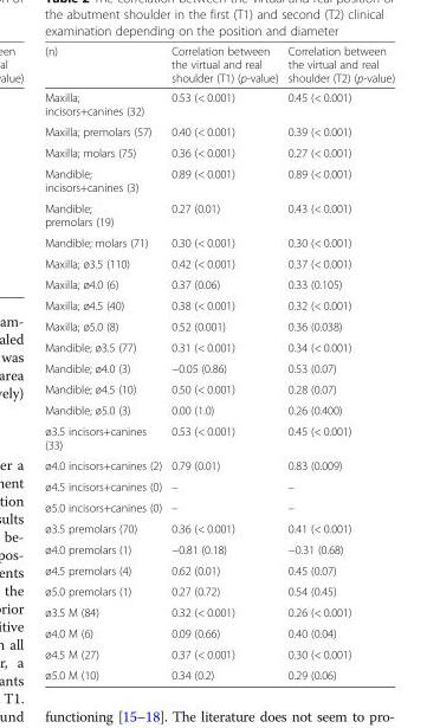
<table><thead><tr><td>(n)</td><td>Correlation between the virtual and real shoulder (T1) (p-value)</td><td>Correlation between the virtual and real shoulder (T2) (p-value)</td></tr></thead><tbody><tr><td>Maxilla; incisors+canines (32)</td><td>0.53 (&lt; 0.001)</td><td>0.45 (&lt; 0.001)</td></tr><tr><td>Maxilla; premolars (57)</td><td>0.40 (&lt; 0.001)</td><td>0.39 (&lt; 0.001)</td></tr><tr><td>Maxilla; molars (75)</td><td>0.36 (&lt; 0.001)</td><td>0.27 (&lt; 0.001)</td></tr><tr><td>Mandible; incisors+canines (3)</td><td>0.89 (&lt; 0.001)</td><td>0.89 (&lt; 0.001)</td></tr><tr><td>Mandible; premolars (19)</td><td>0.27 (0.01)</td><td>0.43 (&lt; 0.001)</td></tr><tr><td>Mandible; molars (71)</td><td>0.30 (&lt; 0.001)</td><td>0.30 (&lt; 0.001)</td></tr><tr><td>Maxilla; ø3.5 (110)</td><td>0.42 (&lt; 0.001)</td><td>0.37 (&lt; 0.001)</td></tr><tr><td>Maxilla; ø4.0 (6)</td><td>0.37 (0.06)</td><td>0.33 (0.105)</td></tr><tr><td>Maxilla; ø4.5 (40)</td><td>0.38 (&lt; 0.001)</td><td>0.32 (&lt; 0.001)</td></tr><tr><td>Maxilla; ø5.0 (8)</td><td>0.52 (0.001)</td><td>0.36 (0.038)</td></tr><tr><td>Mandible; ø3.5 (77)</td><td>0.31 (&lt; 0.001)</td><td>0.34 (&lt; 0.001)</td></tr><tr><td>Mandible; ø4.0 (3)</td><td>−0.05 (0.86)</td><td>0.53 (0.07)</td></tr><tr><td>Mandible; ø4.5 (10)</td><td>0.50 (&lt; 0.001)</td><td>0.28 (0.07)</td></tr><tr><td>Mandible; ø5.0 (3)</td><td>0.00 (1.0)</td><td>0.26 (0.400)</td></tr><tr><td>ø3.5 incisors+canines (33)</td><td>0.53 (&lt; 0.001)</td><td>0.45 (&lt; 0.001)</td></tr><tr><td>ø4.0 incisors+canines (2)</td><td>0.79 (0.01)</td><td>0.83 (0.009)</td></tr><tr><td>ø4.5 incisors+canines (0)</td><td>–</td><td>–</td></tr><tr><td>ø5.0 incisors+canines (0)</td><td>–</td><td>–</td></tr><tr><td>ø3.5 premolars (70)</td><td>0.36 (&lt; 0.001)</td><td>0.41 (&lt; 0.001)</td></tr><tr><td>ø4.0 premolars (1)</td><td>−0.81 (0.18)</td><td>−0.31 (0.68)</td></tr><tr><td>ø4.5 premolars (4)</td><td>0.62 (0.01)</td><td>0.45 (0.07)</td></tr><tr><td>ø5.0 premolars (1)</td><td>0.27 (0.72)</td><td>0.54 (0.45)</td></tr><tr><td>ø3.5 M (84)</td><td>0.32 (&lt; 0.001)</td><td>0.26 (&lt; 0.001)</td></tr><tr><td>ø4.0 M (6)</td><td>0.09 (0.66)</td><td>0.40 (0.04)</td></tr><tr><td>ø4.5 M (27)</td><td>0.37 (&lt; 0.001)</td><td>0.30 (&lt; 0.001)</td></tr><tr><td>ø5.0 M (10)</td><td>0.34 (0.2)</td><td>0.29 (0.06)</td></tr></tbody></table>